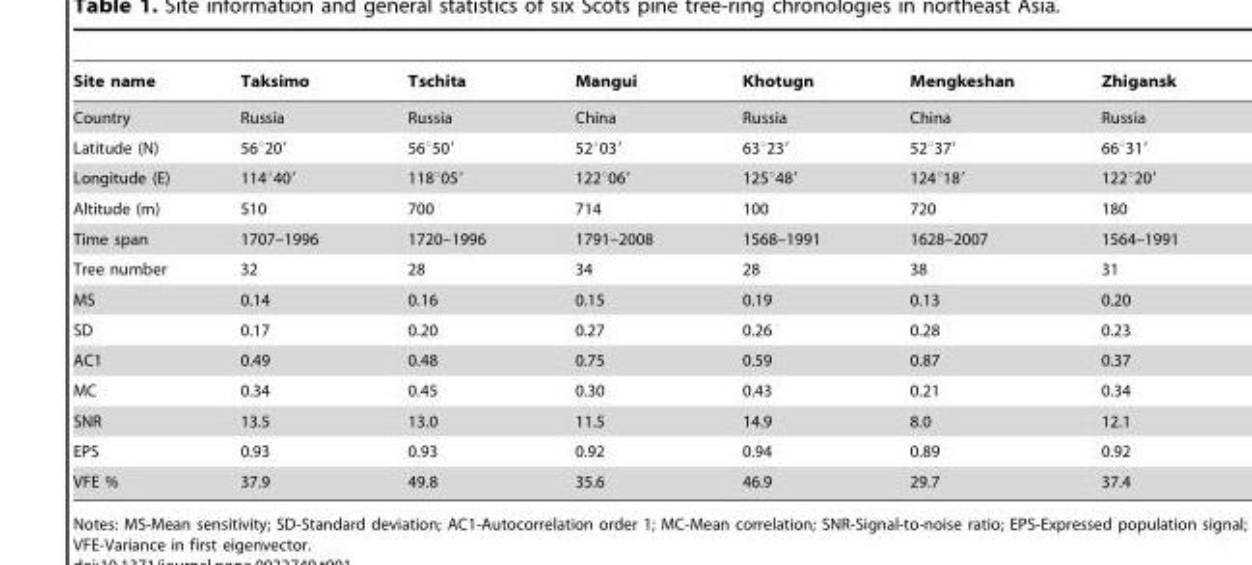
<table><thead><tr><td>Site name</td><td>Taksimo</td><td>Tschita</td><td>Mangui</td><td>Khotugn</td><td>Mengkeshan</td><td>Zhigansk</td></tr></thead><tbody><tr><td>Country</td><td>Russia</td><td>Russia</td><td>China</td><td>Russia</td><td>China</td><td>Russia</td></tr><tr><td>Latitude (N)</td><td>56°20′</td><td>56°50′</td><td>52°03′</td><td>63°23′</td><td>52°37′</td><td>66°31′</td></tr><tr><td>Longitude (E)</td><td>114°40′</td><td>118°05′</td><td>122°06′</td><td>125°48′</td><td>124°18′</td><td>122°20′</td></tr><tr><td>Altitude (m)</td><td>510</td><td>700</td><td>714</td><td>100</td><td>720</td><td>180</td></tr><tr><td>Time span</td><td>1707–1996</td><td>1720–1996</td><td>1791–2008</td><td>1568–1991</td><td>1628–2007</td><td>1564–1991</td></tr><tr><td>Tree number</td><td>32</td><td>28</td><td>34</td><td>28</td><td>38</td><td>31</td></tr><tr><td>MS</td><td>0.14</td><td>0.16</td><td>0.15</td><td>0.19</td><td>0.13</td><td>0.20</td></tr><tr><td>SD</td><td>0.17</td><td>0.20</td><td>0.27</td><td>0.26</td><td>0.28</td><td>0.23</td></tr><tr><td>AC1</td><td>0.49</td><td>0.48</td><td>0.75</td><td>0.59</td><td>0.87</td><td>0.37</td></tr><tr><td>MC</td><td>0.34</td><td>0.45</td><td>0.30</td><td>0.43</td><td>0.21</td><td>0.34</td></tr><tr><td>SNR</td><td>13.5</td><td>13.0</td><td>11.5</td><td>14.9</td><td>8.0</td><td>12.1</td></tr><tr><td>EPS</td><td>0.93</td><td>0.93</td><td>0.92</td><td>0.94</td><td>0.89</td><td>0.92</td></tr><tr><td>VFE %</td><td>37.9</td><td>49.8</td><td>35.6</td><td>46.9</td><td>29.7</td><td>37.4</td></tr></tbody></table>